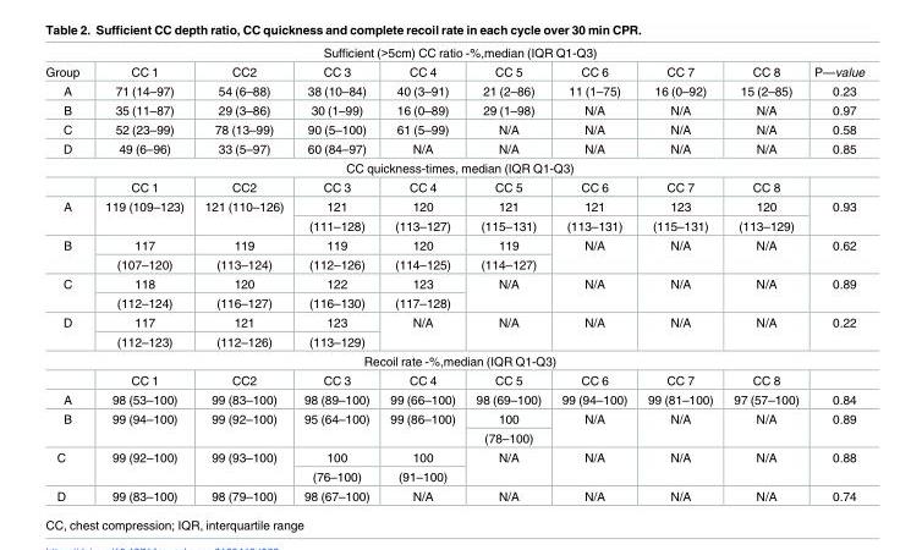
<table><tbody><tr><td colspan="10">Sufficient (&gt;5cm) CC ratio -%,median (IQR Q1-Q3)</td></tr><tr><td>Group</td><td>CC 1</td><td>CC2</td><td>CC 3</td><td>CC 4</td><td>CC 5</td><td>CC 6</td><td>CC 7</td><td>CC 8</td><td>P—value</td></tr><tr><td>A</td><td>71 (14–97)</td><td>54 (6–88)</td><td>38 (10–84)</td><td>40 (3–91)</td><td>21 (2–86)</td><td>11 (1–75)</td><td>16 (0–92)</td><td>15 (2–85)</td><td>0.23</td></tr><tr><td>B</td><td>35 (11–87)</td><td>29 (3–86)</td><td>30 (1–99)</td><td>16 (0–89)</td><td>29 (1–98)</td><td>N/A</td><td>N/A</td><td>N/A</td><td>0.97</td></tr><tr><td>C</td><td>52 (23–99)</td><td>78 (13–99)</td><td>90 (5–100)</td><td>61 (5–99)</td><td>N/A</td><td>N/A</td><td>N/A</td><td>N/A</td><td>0.58</td></tr><tr><td>D</td><td>49 (6–96)</td><td>33 (5–97)</td><td>60 (84–97)</td><td>N/A</td><td>N/A</td><td>N/A</td><td>N/A</td><td>N/A</td><td>0.85</td></tr><tr><td colspan="10">CC quickness-times, median (IQR Q1-Q3)</td></tr><tr><td></td><td>CC 1</td><td>CC2</td><td>CC 3</td><td>CC 4</td><td>CC 5</td><td>CC 6</td><td>CC 7</td><td>CC 8</td><td></td></tr><tr><td rowspan="2">A</td><td rowspan="2">119 (109–123)</td><td rowspan="2">121 (110–126)</td><td>121</td><td>120</td><td>121</td><td>121</td><td>123</td><td>120</td><td rowspan="2">0.93</td></tr><tr><td>(111–128)</td><td>(113–127)</td><td>(115–131)</td><td>(113–131)</td><td>(115–131)</td><td>(113–129)</td></tr><tr><td rowspan="2">B</td><td>117</td><td>119</td><td>119</td><td>120</td><td>119</td><td rowspan="2">N/A</td><td rowspan="2">N/A</td><td rowspan="2">N/A</td><td rowspan="2">0.62</td></tr><tr><td>(107–120)</td><td>(113–124)</td><td>(112–126)</td><td>(114–125)</td><td>(114–127)</td></tr><tr><td rowspan="2">C</td><td>118</td><td>120</td><td>122</td><td>123</td><td rowspan="2">N/A</td><td rowspan="2">N/A</td><td rowspan="2">N/A</td><td rowspan="2">N/A</td><td rowspan="2">0.89</td></tr><tr><td>(112–124)</td><td>(116–127)</td><td>(116–130)</td><td>(117–128)</td></tr><tr><td rowspan="2">D</td><td>117</td><td>121</td><td>123</td><td rowspan="2">N/A</td><td rowspan="2">N/A</td><td rowspan="2">N/A</td><td rowspan="2">N/A</td><td rowspan="2">N/A</td><td rowspan="2">0.22</td></tr><tr><td>(112–123)</td><td>(112–126)</td><td>(113–129)</td></tr><tr><td colspan="10">Recoil rate -%,median (IQR Q1-Q3)</td></tr><tr><td></td><td>CC 1</td><td>CC2</td><td>CC 3</td><td>CC 4</td><td>CC 5</td><td>CC 6</td><td>CC 7</td><td>CC 8</td><td></td></tr><tr><td>A</td><td>98 (53–100)</td><td>99 (83–100)</td><td>98 (89–100)</td><td>99 (66–100)</td><td>98 (69–100)</td><td>99 (94–100)</td><td>99 (81–100)</td><td>97 (57–100)</td><td>0.84</td></tr><tr><td rowspan="2">B</td><td rowspan="2">99 (94–100)</td><td rowspan="2">99 (92–100)</td><td rowspan="2">95 (64–100)</td><td rowspan="2">99 (86–100)</td><td>100</td><td rowspan="2">N/A</td><td rowspan="2">N/A</td><td rowspan="2">N/A</td><td rowspan="2">0.89</td></tr><tr><td>(78–100)</td></tr><tr><td rowspan="2">C</td><td rowspan="2">99 (92–100)</td><td rowspan="2">99 (93–100)</td><td>100</td><td>100</td><td rowspan="2">N/A</td><td rowspan="2">N/A</td><td rowspan="2">N/A</td><td rowspan="2">N/A</td><td rowspan="2">0.88</td></tr><tr><td>(76–100)</td><td>(91–100)</td></tr><tr><td>D</td><td>99 (83–100)</td><td>98 (79–100)</td><td>98 (67–100)</td><td>N/A</td><td>N/A</td><td>N/A</td><td>N/A</td><td>N/A</td><td>0.74</td></tr></tbody></table>